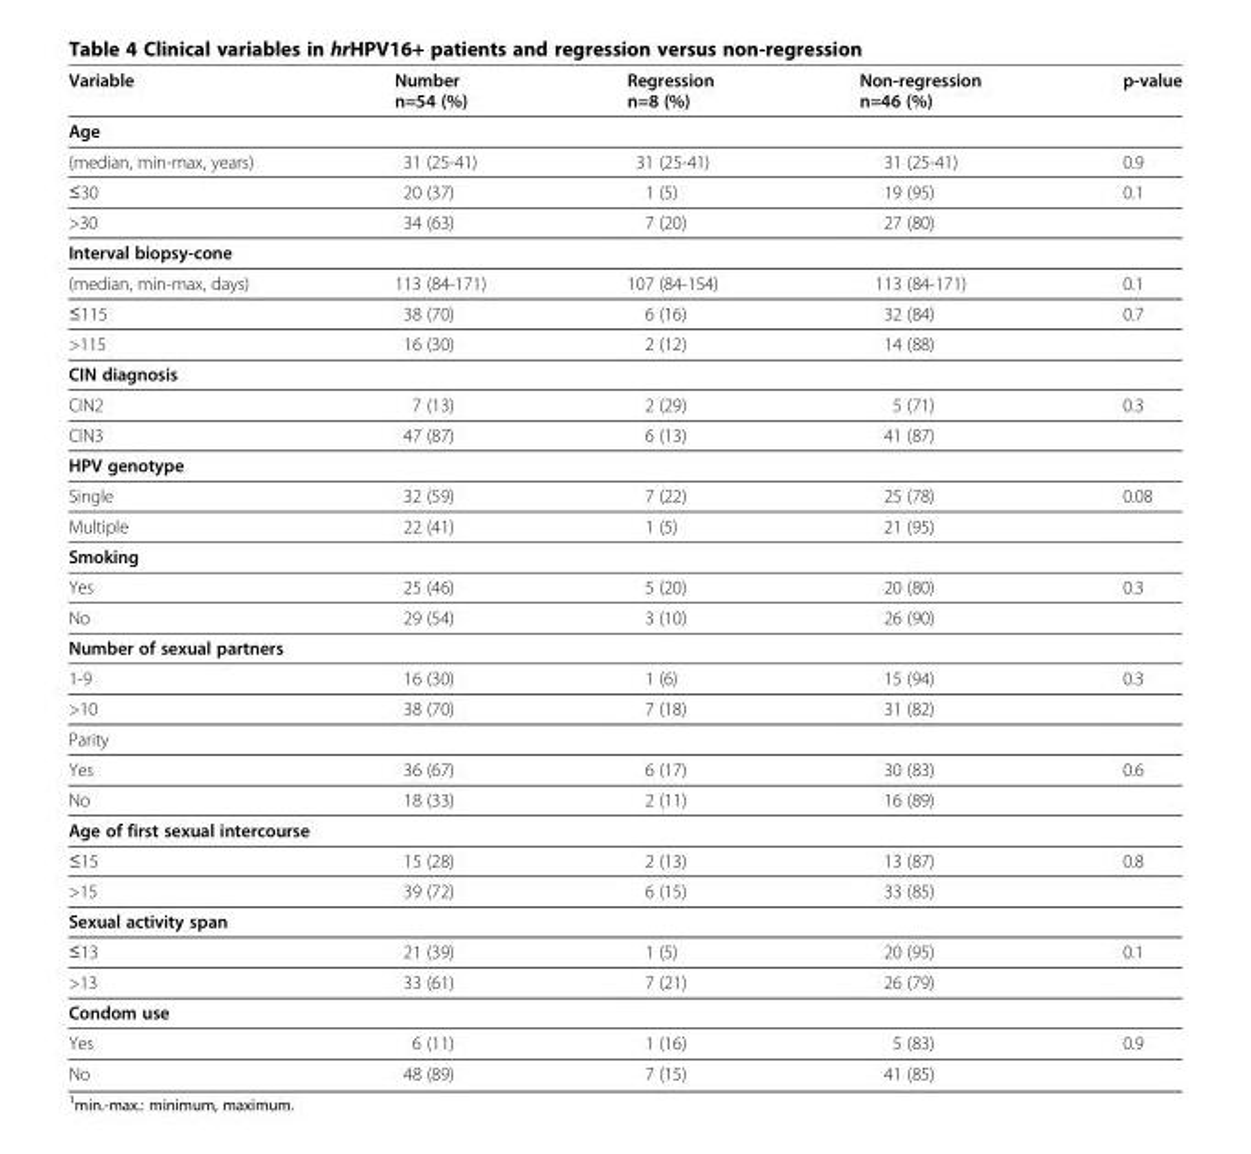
<table><thead><tr><td>Variable</td><td>Number n=54 (%)</td><td>Regression n=8 (%)</td><td>Non-regression n=46 (%)</td><td>p-value</td></tr></thead><tbody><tr><td colspan="5">Age</td></tr><tr><td>(median, min-max, years)</td><td>31 (25-41)</td><td>31 (25-41)</td><td>31 (25-41)</td><td>0.9</td></tr><tr><td>≤30</td><td>20 (37)</td><td>1 (5)</td><td>19 (95)</td><td>0.1</td></tr><tr><td>&gt;30</td><td>34 (63)</td><td>7 (20)</td><td>27 (80)</td><td></td></tr><tr><td colspan="5">Interval biopsy-cone</td></tr><tr><td>(median, min-max, days)</td><td>113 (84-171)</td><td>107 (84-154)</td><td>113 (84-171)</td><td>0.1</td></tr><tr><td>≤115</td><td>38 (70)</td><td>6 (16)</td><td>32 (84)</td><td>0.7</td></tr><tr><td>&gt;115</td><td>16 (30)</td><td>2 (12)</td><td>14 (88)</td><td></td></tr><tr><td colspan="5">CIN diagnosis</td></tr><tr><td>CIN2</td><td>7 (13)</td><td>2 (29)</td><td>5 (71)</td><td>0.3</td></tr><tr><td>CIN3</td><td>47 (87)</td><td>6 (13)</td><td>41 (87)</td><td></td></tr><tr><td colspan="5">HPV genotype</td></tr><tr><td>Single</td><td>32 (59)</td><td>7 (22)</td><td>25 (78)</td><td>0.08</td></tr><tr><td>Multiple</td><td>22 (41)</td><td>1 (5)</td><td>21 (95)</td><td></td></tr><tr><td colspan="5">Smoking</td></tr><tr><td>Yes</td><td>25 (46)</td><td>5 (20)</td><td>20 (80)</td><td>0.3</td></tr><tr><td>No</td><td>29 (54)</td><td>3 (10)</td><td>26 (90)</td><td></td></tr><tr><td colspan="5">Number of sexual partners</td></tr><tr><td>1-9</td><td>16 (30)</td><td>1 (6)</td><td>15 (94)</td><td>0.3</td></tr><tr><td>&gt;10</td><td>38 (70)</td><td>7 (18)</td><td>31 (82)</td><td></td></tr><tr><td colspan="5">Parity</td></tr><tr><td>Yes</td><td>36 (67)</td><td>6 (17)</td><td>30 (83)</td><td>0.6</td></tr><tr><td>No</td><td>18 (33)</td><td>2 (11)</td><td>16 (89)</td><td></td></tr><tr><td colspan="5">Age of first sexual intercourse</td></tr><tr><td>≤15</td><td>15 (28)</td><td>2 (13)</td><td>13 (87)</td><td>0.8</td></tr><tr><td>&gt;15</td><td>39 (72)</td><td>6 (15)</td><td>33 (85)</td><td></td></tr><tr><td colspan="5">Sexual activity span</td></tr><tr><td>≤13</td><td>21 (39)</td><td>1 (5)</td><td>20 (95)</td><td>0.1</td></tr><tr><td>&gt;13</td><td>33 (61)</td><td>7 (21)</td><td>26 (79)</td><td></td></tr><tr><td colspan="5">Condom use</td></tr><tr><td>Yes</td><td>6 (11)</td><td>1 (16)</td><td>5 (83)</td><td>0.9</td></tr><tr><td>No</td><td>48 (89)</td><td>7 (15)</td><td>41 (85)</td><td></td></tr></tbody></table>